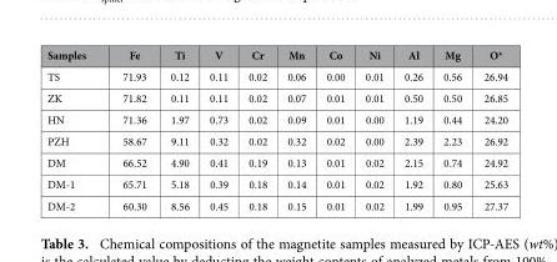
<table><thead><tr><td>Samples</td><td>Fe</td><td>Ti</td><td>V</td><td>Cr</td><td>Mn</td><td>Co</td><td>Ni</td><td>Al</td><td>Mg</td><td>O*</td></tr></thead><tbody><tr><td>TS</td><td>71.93</td><td>0.12</td><td>0.11</td><td>0.02</td><td>0.06</td><td>0.00</td><td>0.01</td><td>0.26</td><td>0.56</td><td>26.94</td></tr><tr><td>ZK</td><td>71.82</td><td>0.11</td><td>0.11</td><td>0.02</td><td>0.07</td><td>0.01</td><td>0.01</td><td>0.50</td><td>0.50</td><td>26.85</td></tr><tr><td>HN</td><td>71.36</td><td>1.97</td><td>0.73</td><td>0.02</td><td>0.09</td><td>0.01</td><td>0.00</td><td>1.19</td><td>0.44</td><td>24.20</td></tr><tr><td>PZH</td><td>58.67</td><td>9.11</td><td>0.32</td><td>0.02</td><td>0.32</td><td>0.02</td><td>0.00</td><td>2.39</td><td>2.23</td><td>26.92</td></tr><tr><td>DM</td><td>66.52</td><td>4.90</td><td>0.41</td><td>0.19</td><td>0.13</td><td>0.01</td><td>0.02</td><td>2.15</td><td>0.74</td><td>24.92</td></tr><tr><td>DM-1</td><td>65.71</td><td>5.18</td><td>0.39</td><td>0.18</td><td>0.14</td><td>0.01</td><td>0.02</td><td>1.92</td><td>0.80</td><td>25.63</td></tr><tr><td>DM-2</td><td>60.30</td><td>8.56</td><td>0.45</td><td>0.18</td><td>0.15</td><td>0.01</td><td>0.02</td><td>1.99</td><td>0.95</td><td>27.37</td></tr></tbody></table>